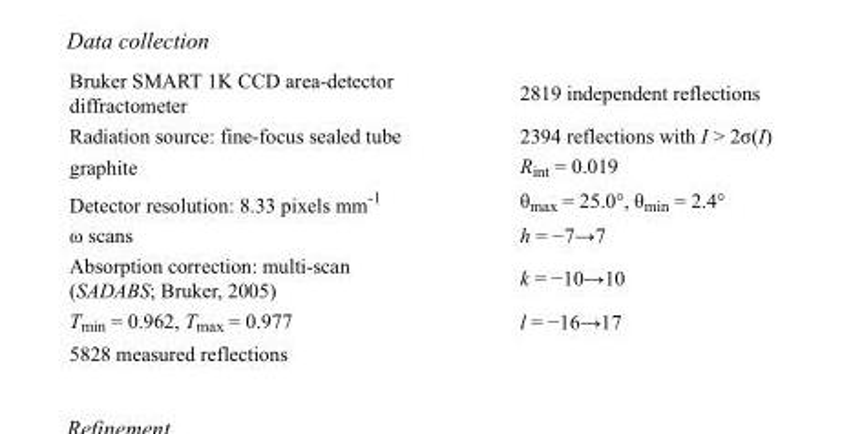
<table><tbody><tr><td>Bruker SMART 1K CCD area-detector diffractometer</td><td>2819 independent reflections</td></tr><tr><td>Radiation source: fine-focus sealed tube</td><td>2394 reflections with I &gt; 2σ(I)</td></tr><tr><td>graphite</td><td>R<sub>int</sub> = 0.019</td></tr><tr><td>Detector resolution: 8.33 pixels mm<sup>-1</sup></td><td>θ<sub>max</sub> = 25.0°, θ<sub>min</sub> = 2.4°</td></tr><tr><td>ω scans</td><td>h = −7→7</td></tr><tr><td>Absorption correction: multi-scan (SADABS; Bruker, 2005)</td><td>k = −10→10</td></tr><tr><td>T<sub>min</sub> = 0.962, T<sub>max</sub> = 0.977</td><td>l = −16→17</td></tr><tr><td>5828 measured reflections</td><td></td></tr></tbody></table>